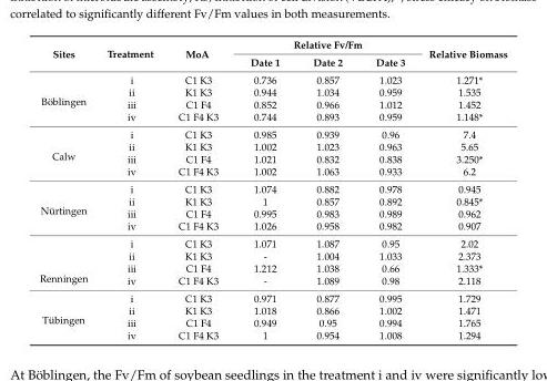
<table><thead><tr><td rowspan="2">Sites</td><td rowspan="2">Treatment</td><td rowspan="2">MoA</td><td colspan="3">Relative Fv/Fm</td><td rowspan="2">Relative Biomass</td></tr><tr><td>Date 1</td><td>Date 2</td><td>Date 3</td></tr></thead><tbody><tr><td rowspan="4">Böblingen</td><td>i</td><td>C1 K3</td><td>0.736</td><td>0.857</td><td>1.023</td><td>1.271*</td></tr><tr><td>ii</td><td>K1 K3</td><td>0.944</td><td>1.034</td><td>0.959</td><td>1.535</td></tr><tr><td>iii</td><td>C1 F4</td><td>0.852</td><td>0.966</td><td>1.012</td><td>1.452</td></tr><tr><td>iv</td><td>C1 F4 K3</td><td>0.744</td><td>0.893</td><td>0.959</td><td>1.148*</td></tr><tr><td rowspan="4">Calw</td><td>i</td><td>C1 K3</td><td>0.985</td><td>0.939</td><td>0.96</td><td>7.4</td></tr><tr><td>ii</td><td>K1 K3</td><td>1.002</td><td>1.023</td><td>0.963</td><td>5.65</td></tr><tr><td>iii</td><td>C1 F4</td><td>1.021</td><td>0.832</td><td>0.838</td><td>3.250*</td></tr><tr><td>iv</td><td>C1 F4 K3</td><td>1.002</td><td>1.063</td><td>0.933</td><td>6.2</td></tr><tr><td rowspan="4">Nürtingen</td><td>i</td><td>C1 K3</td><td>1.074</td><td>0.882</td><td>0.978</td><td>0.945</td></tr><tr><td>ii</td><td>K1 K3</td><td>1</td><td>0.857</td><td>0.892</td><td>0.845*</td></tr><tr><td>iii</td><td>C1 F4</td><td>0.995</td><td>0.983</td><td>0.989</td><td>0.962</td></tr><tr><td>iv</td><td>C1 F4 K3</td><td>1.026</td><td>0.958</td><td>0.982</td><td>0.907</td></tr><tr><td rowspan="4">Renningen</td><td>i</td><td>C1 K3</td><td>1.071</td><td>1.087</td><td>0.95</td><td>2.02</td></tr><tr><td>ii</td><td>K1 K3</td><td>-</td><td>1.004</td><td>1.033</td><td>2.373</td></tr><tr><td>iii</td><td>C1 F4</td><td>1.212</td><td>1.038</td><td>0.66</td><td>1.333*</td></tr><tr><td>iv</td><td>C1 F4 K3</td><td>-</td><td>1.089</td><td>0.98</td><td>2.118</td></tr><tr><td rowspan="4">Tübingen</td><td>i</td><td>C1 K3</td><td>0.971</td><td>0.877</td><td>0.995</td><td>1.729</td></tr><tr><td>ii</td><td>K1 K3</td><td>1.018</td><td>0.866</td><td>1.002</td><td>1.471</td></tr><tr><td>iii</td><td>C1 F4</td><td>0.949</td><td>0.95</td><td>0.994</td><td>1.765</td></tr><tr><td>iv</td><td>C1 F4 K3</td><td>1</td><td>0.954</td><td>1.008</td><td>1.294</td></tr></tbody></table>